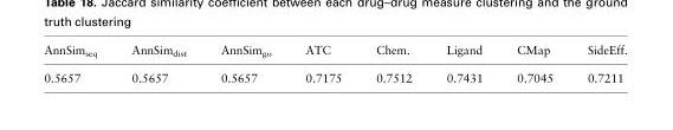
<table><thead><tr><td>AnnSim<sub>seq</sub></td><td>AnnSim<sub>dist</sub></td><td>AnnSim<sub>go</sub></td><td>ATC</td><td>Chem.</td><td>Ligand</td><td>CMap</td><td>SideEff.</td></tr></thead><tbody><tr><td>0.5657</td><td>0.5657</td><td>0.5657</td><td>0.7175</td><td>0.7512</td><td>0.7431</td><td>0.7045</td><td>0.7211</td></tr></tbody></table>